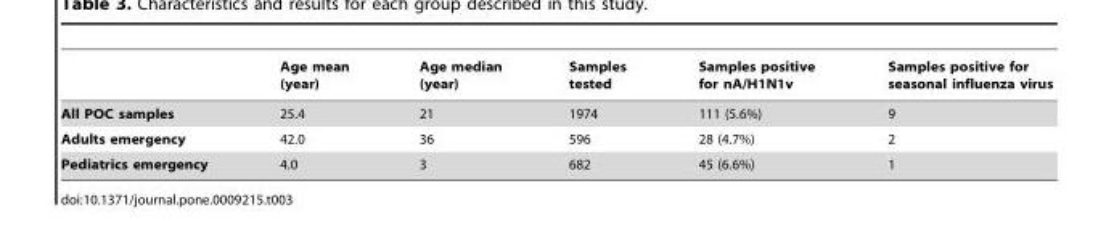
<table><thead><tr><td></td><td>Age mean (year)</td><td>Age median (year)</td><td>Samples tested</td><td>Samples positive for nA/H1N1v</td><td>Samples positive for seasonal influenza virus</td></tr></thead><tbody><tr><td>All POC samples</td><td>25.4</td><td>21</td><td>1974</td><td>111 (5.6%)</td><td>9</td></tr><tr><td>Adults emergency</td><td>42.0</td><td>36</td><td>596</td><td>28 (4.7%)</td><td>2</td></tr><tr><td>Pediatrics emergency</td><td>4.0</td><td>3</td><td>682</td><td>45 (6.6%)</td><td>1</td></tr></tbody></table>